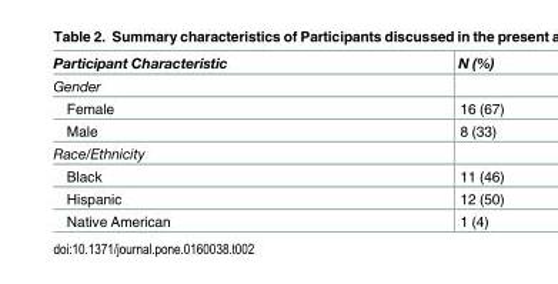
<table><thead><tr><td>Participant Characteristic</td><td>N (%)</td></tr></thead><tbody><tr><td colspan="2">Gender</td></tr><tr><td>Female</td><td>16 (67)</td></tr><tr><td>Male</td><td>8 (33)</td></tr><tr><td colspan="2">Race/Ethnicity</td></tr><tr><td>Black</td><td>11 (46)</td></tr><tr><td>Hispanic</td><td>12 (50)</td></tr><tr><td>Native American</td><td>1 (4)</td></tr></tbody></table>